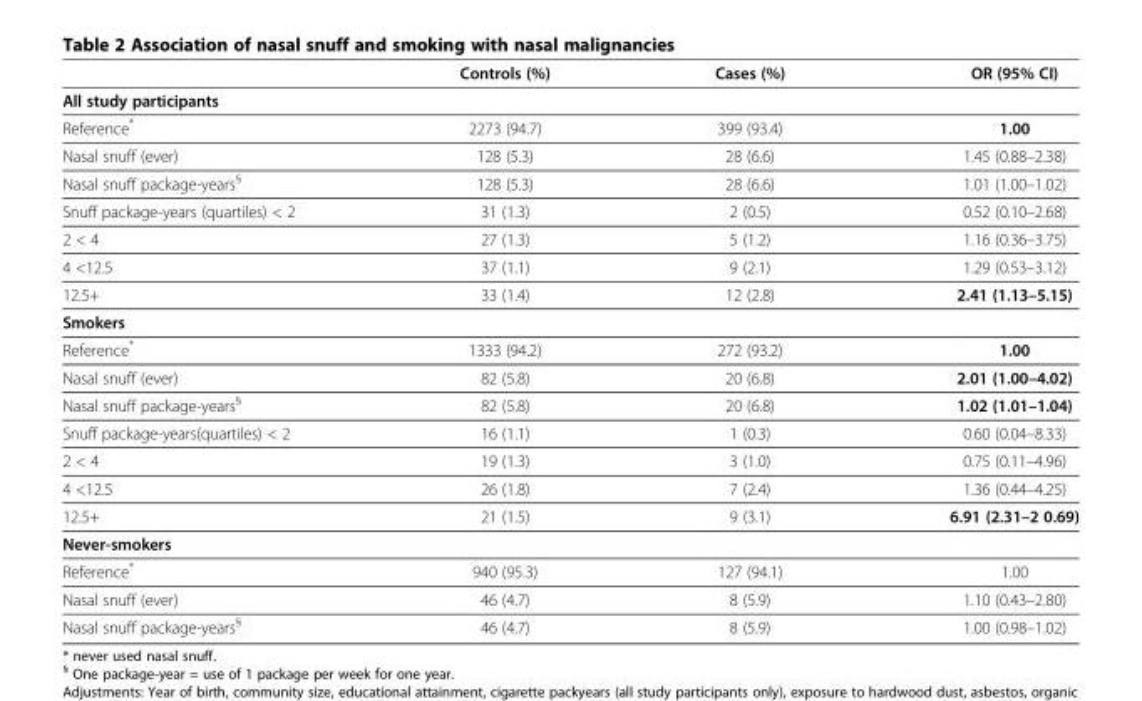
<table><thead><tr><td></td><td>Controls (%)</td><td>Cases (%)</td><td>OR (95% CI)</td></tr></thead><tbody><tr><td colspan="4">All study participants</td></tr><tr><td>Reference*</td><td>2273 (94.7)</td><td>399 (93.4)</td><td>1.00</td></tr><tr><td>Nasal snuff (ever)</td><td>128 (5.3)</td><td>28 (6.6)</td><td>1.45 (0.88–2.38)</td></tr><tr><td>Nasal snuff package-years<sup>§</sup></td><td>128 (5.3)</td><td>28 (6.6)</td><td>1.01 (1.00–1.02)</td></tr><tr><td>Snuff package-years (quartiles) &lt; 2</td><td>31 (1.3)</td><td>2 (0.5)</td><td>0.52 (0.10–2.68)</td></tr><tr><td>2 &lt; 4</td><td>27 (1.3)</td><td>5 (1.2)</td><td>1.16 (0.36–3.75)</td></tr><tr><td>4 &lt;12.5</td><td>37 (1.1)</td><td>9 (2.1)</td><td>1.29 (0.53–3.12)</td></tr><tr><td>12.5+</td><td>33 (1.4)</td><td>12 (2.8)</td><td>2.41 (1.13–5.15)</td></tr><tr><td colspan="4">Smokers</td></tr><tr><td>Reference*</td><td>1333 (94.2)</td><td>272 (93.2)</td><td>1.00</td></tr><tr><td>Nasal snuff (ever)</td><td>82 (5.8)</td><td>20 (6.8)</td><td>2.01 (1.00–4.02)</td></tr><tr><td>Nasal snuff package-years<sup>§</sup></td><td>82 (5.8)</td><td>20 (6.8)</td><td>1.02 (1.01–1.04)</td></tr><tr><td>Snuff package-years(quartiles) &lt; 2</td><td>16 (1.1)</td><td>1 (0.3)</td><td>0.60 (0.04–8.33)</td></tr><tr><td>2 &lt; 4</td><td>19 (1.3)</td><td>3 (1.0)</td><td>0.75 (0.11–4.96)</td></tr><tr><td>4 &lt;12.5</td><td>26 (1.8)</td><td>7 (2.4)</td><td>1.36 (0.44–4.25)</td></tr><tr><td>12.5+</td><td>21 (1.5)</td><td>9 (3.1)</td><td>6.91 (2.31–2 0.69)</td></tr><tr><td colspan="4">Never-smokers</td></tr><tr><td>Reference*</td><td>940 (95.3)</td><td>127 (94.1)</td><td>1.00</td></tr><tr><td>Nasal snuff (ever)</td><td>46 (4.7)</td><td>8 (5.9)</td><td>1.10 (0.43–2.80)</td></tr><tr><td>Nasal snuff package-years<sup>§</sup></td><td>46 (4.7)</td><td>8 (5.9)</td><td>1.00 (0.98–1.02)</td></tr></tbody></table>